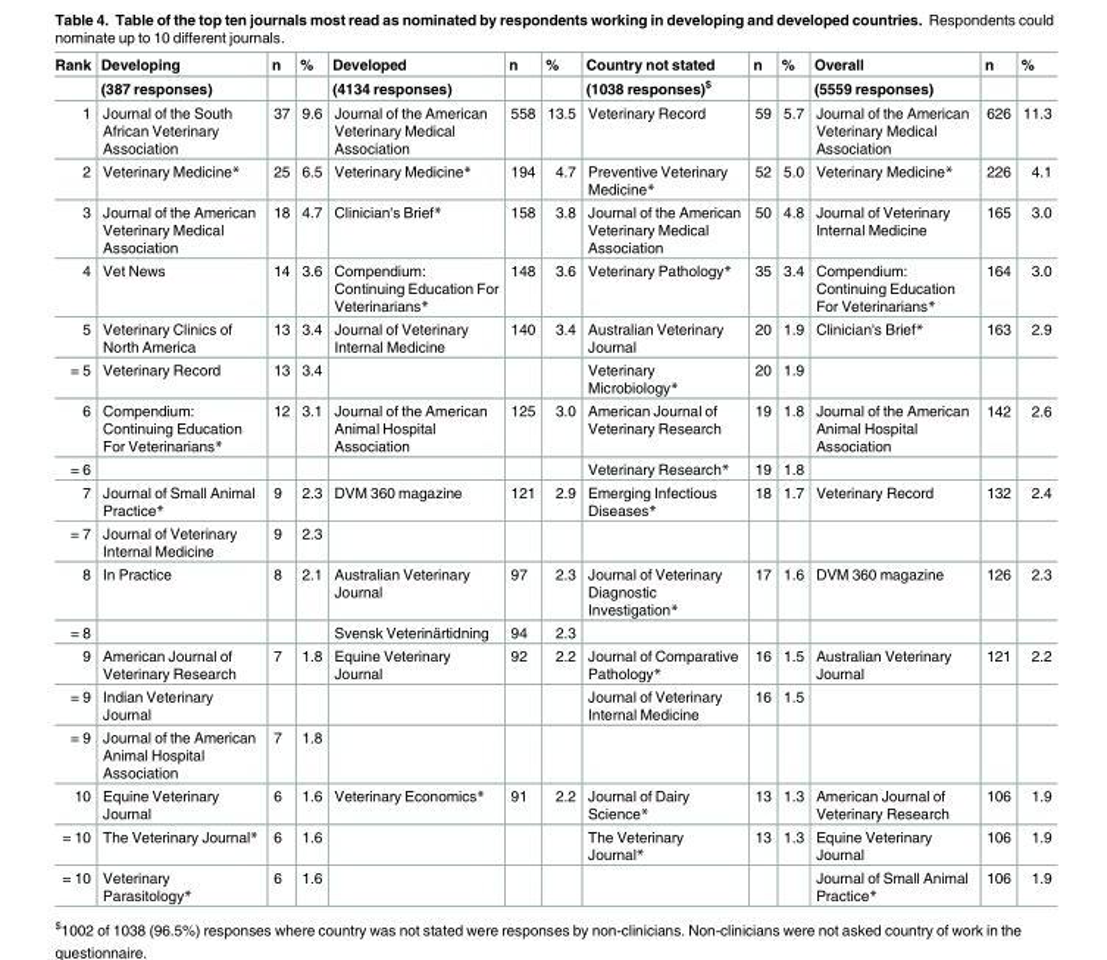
<table><thead><tr><td rowspan="2">Rank</td><td rowspan="2">Developing (387 responses)</td><td rowspan="2">n</td><td rowspan="2">%</td><td rowspan="2">Developed (4134 responses)</td><td rowspan="2">n</td><td rowspan="2">%</td><td rowspan="2">Country not stated (1038 responses)<sup>$</sup></td><td rowspan="2">n</td><td rowspan="2">%</td><td rowspan="2">Overall (5559 responses)</td><td rowspan="2">n</td><td rowspan="2">%</td></tr><tr></tr></thead><tbody><tr><td>1</td><td>Journal of the South African Veterinary Association</td><td>37</td><td>9.6</td><td>Journal of the American Veterinary Medical Association</td><td>558</td><td>13.5</td><td>Veterinary Record</td><td>59</td><td>5.7</td><td>Journal of the American Veterinary Medical Association</td><td>626</td><td>11.3</td></tr><tr><td>2</td><td>Veterinary Medicine*</td><td>25</td><td>6.5</td><td>Veterinary Medicine*</td><td>194</td><td>4.7</td><td>Preventive Veterinary Medicine*</td><td>52</td><td>5.0</td><td>Veterinary Medicine*</td><td>226</td><td>4.1</td></tr><tr><td>3</td><td>Journal of the American Veterinary Medical Association</td><td>18</td><td>4.7</td><td>Clinician&#x27;s Brief*</td><td>158</td><td>3.8</td><td>Journal of the American Veterinary Medical Association</td><td>50</td><td>4.8</td><td>Journal of Veterinary Internal Medicine</td><td>165</td><td>3.0</td></tr><tr><td>4</td><td>Vet News</td><td>14</td><td>3.6</td><td>Compendium: Continuing Education For Veterinarians*</td><td>148</td><td>3.6</td><td>Veterinary Pathology*</td><td>35</td><td>3.4</td><td>Compendium: Continuing Education For Veterinarians*</td><td>164</td><td>3.0</td></tr><tr><td>5</td><td>Veterinary Clinics of North America</td><td>13</td><td>3.4</td><td>Journal of Veterinary Internal Medicine</td><td>140</td><td>3.4</td><td>Australian Veterinary Journal</td><td>20</td><td>1.9</td><td>Clinician&#x27;s Brief*</td><td>163</td><td>2.9</td></tr><tr><td>= 5</td><td>Veterinary Record</td><td>13</td><td>3.4</td><td></td><td></td><td></td><td>Veterinary Microbiology*</td><td>20</td><td>1.9</td><td></td><td></td><td></td></tr><tr><td>6</td><td>Compendium: Continuing Education For Veterinarians*</td><td>12</td><td>3.1</td><td>Journal of the American Animal Hospital Association</td><td>125</td><td>3.0</td><td>American Journal of Veterinary Research</td><td>19</td><td>1.8</td><td>Journal of the American Animal Hospital Association</td><td>142</td><td>2.6</td></tr><tr><td>= 6</td><td></td><td></td><td></td><td></td><td></td><td></td><td>Veterinary Research*</td><td>19</td><td>1.8</td><td></td><td></td><td></td></tr><tr><td>7</td><td>Journal of Small Animal Practice*</td><td>9</td><td>2.3</td><td>DVM 360 magazine</td><td>121</td><td>2.9</td><td>Emerging Infectious Diseases*</td><td>18</td><td>1.7</td><td>Veterinary Record</td><td>132</td><td>2.4</td></tr><tr><td>= 7</td><td>Journal of Veterinary Internal Medicine</td><td>9</td><td>2.3</td><td></td><td></td><td></td><td></td><td></td><td></td><td></td><td></td><td></td></tr><tr><td>8</td><td>In Practice</td><td>8</td><td>2.1</td><td>Australian Veterinary Journal</td><td>97</td><td>2.3</td><td>Journal of Veterinary Diagnostic Investigation*</td><td>17</td><td>1.6</td><td>DVM 360 magazine</td><td>126</td><td>2.3</td></tr><tr><td>= 8</td><td></td><td></td><td></td><td>Svensk Veterinärtidning</td><td>94</td><td>2.3</td><td></td><td></td><td></td><td></td><td></td><td></td></tr><tr><td>9</td><td>American Journal of Veterinary Research</td><td>7</td><td>1.8</td><td>Equine Veterinary Journal</td><td>92</td><td>2.2</td><td>Journal of Comparative Pathology*</td><td>16</td><td>1.5</td><td>Australian Veterinary Journal</td><td>121</td><td>2.2</td></tr><tr><td>= 9</td><td>Indian Veterinary Journal</td><td></td><td></td><td></td><td></td><td></td><td>Journal of Veterinary Internal Medicine</td><td>16</td><td>1.5</td><td></td><td></td><td></td></tr><tr><td>= 9</td><td>Journal of the American Animal Hospital Association</td><td>7</td><td>1.8</td><td></td><td></td><td></td><td></td><td></td><td></td><td></td><td></td><td></td></tr><tr><td>10</td><td>Equine Veterinary Journal</td><td>6</td><td>1.6</td><td>Veterinary Economics*</td><td>91</td><td>2.2</td><td>Journal of Dairy Science*</td><td>13</td><td>1.3</td><td>American Journal of Veterinary Research</td><td>106</td><td>1.9</td></tr><tr><td>= 10</td><td>The Veterinary Journal*</td><td>6</td><td>1.6</td><td></td><td></td><td></td><td>The Veterinary Journal*</td><td>13</td><td>1.3</td><td>Equine Veterinary Journal</td><td>106</td><td>1.9</td></tr><tr><td>= 10</td><td>Veterinary Parasitology*</td><td>6</td><td>1.6</td><td></td><td></td><td></td><td></td><td></td><td></td><td>Journal of Small Animal Practice*</td><td>106</td><td>1.9</td></tr></tbody></table>